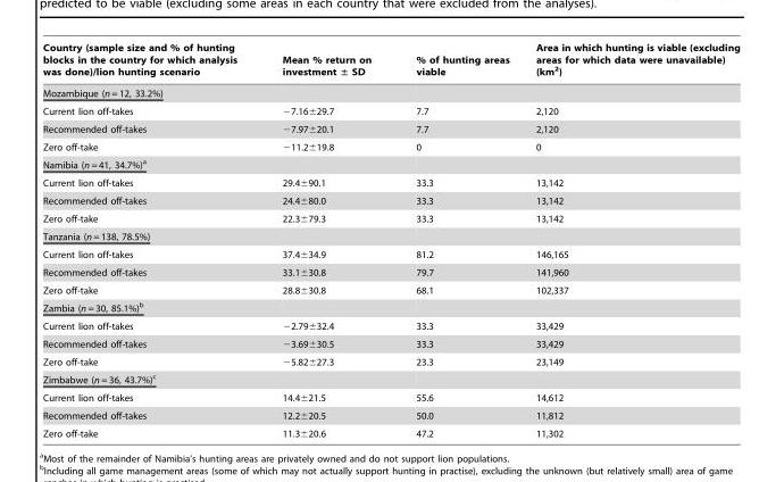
<table><thead><tr><td>Country (sample size and % of hunting blocks in the country for which analysis was done)/lion hunting scenario</td><td>Mean % return on investment ± SD</td><td>% of hunting areas viable</td><td>Area in which hunting is viable (excluding areas for which data were unavailable) (km<sup>2</sup>)</td></tr></thead><tbody><tr><td colspan="4">Mozambique (n = 12, 33.2%)</td></tr><tr><td>Current lion off-takes</td><td>−7.16±29.7</td><td>7.7</td><td>2,120</td></tr><tr><td>Recommended off-takes</td><td>−7.97±20.1</td><td>7.7</td><td>2,120</td></tr><tr><td>Zero off-take</td><td>−11.2±19.8</td><td>0</td><td>0</td></tr><tr><td colspan="4">Namibia (n = 41, 34.7%)a</td></tr><tr><td>Current lion off-takes</td><td>29.4±90.1</td><td>33.3</td><td>13,142</td></tr><tr><td>Recommended off-takes</td><td>24.4±80.0</td><td>33.3</td><td>13,142</td></tr><tr><td>Zero off-take</td><td>22.3±79.3</td><td>33.3</td><td>13,142</td></tr><tr><td colspan="4">Tanzania (n = 138, 78.5%)</td></tr><tr><td>Current lion off-takes</td><td>37.4±34.9</td><td>81.2</td><td>146,165</td></tr><tr><td>Recommended off-takes</td><td>33.1±30.8</td><td>79.7</td><td>141,960</td></tr><tr><td>Zero off-take</td><td>28.8±30.8</td><td>68.1</td><td>102,337</td></tr><tr><td colspan="4">Zambia (n = 30, 85.1%)b</td></tr><tr><td>Current lion off-takes</td><td>−2.79±32.4</td><td>33.3</td><td>33,429</td></tr><tr><td>Recommended off-takes</td><td>−3.69±30.5</td><td>33.3</td><td>33,429</td></tr><tr><td>Zero off-take</td><td>−5.82±27.3</td><td>23.3</td><td>23,149</td></tr><tr><td colspan="4">Zimbabwe (n = 36, 43.7%)c</td></tr><tr><td>Current lion off-takes</td><td>14.4±21.5</td><td>55.6</td><td>14,612</td></tr><tr><td>Recommended off-takes</td><td>12.2±20.5</td><td>50.0</td><td>11,812</td></tr><tr><td>Zero off-take</td><td>11.3±20.6</td><td>47.2</td><td>11,302</td></tr></tbody></table>